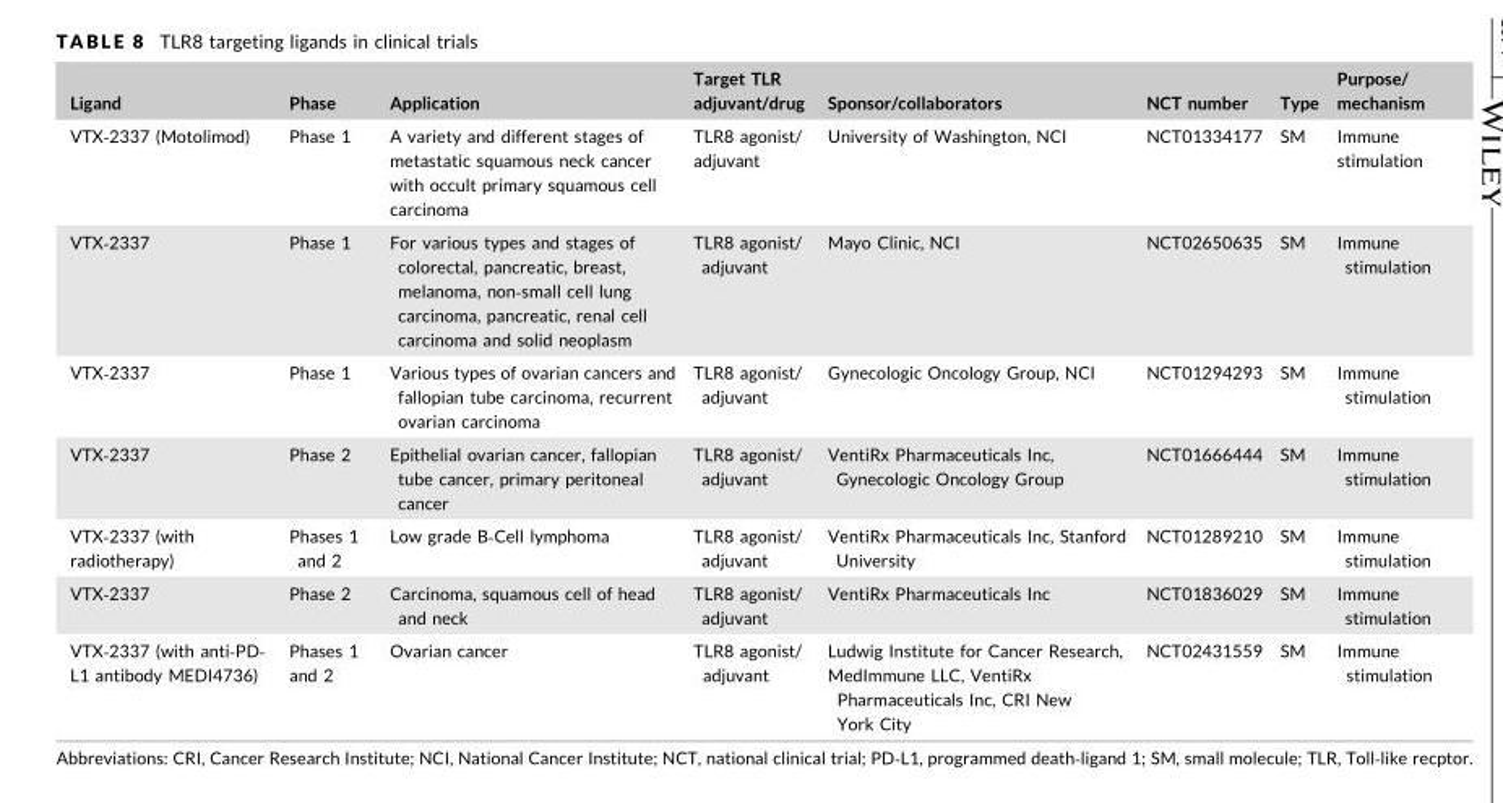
<table><thead><tr><td>Ligand</td><td>Phase</td><td>Application</td><td>Target TLR adjuvant/drug</td><td>Sponsor/collaborators</td><td>NCT number</td><td>Type</td><td>Purpose/ mechanism</td></tr></thead><tbody><tr><td>VTX‐2337 (Motolimod)</td><td>Phase 1</td><td>A variety and different stages of metastatic squamous neck cancer with occult primary squamous cell carcinoma</td><td>TLR8 agonist/ adjuvant</td><td>University of Washington, NCI</td><td>NCT01334177</td><td>SM</td><td>Immune stimulation</td></tr><tr><td>VTX‐2337</td><td>Phase 1</td><td>For various types and stages of colorectal, pancreatic, breast, melanoma, non‐small cell lung carcinoma, pancreatic, renal cell carcinoma and solid neoplasm</td><td>TLR8 agonist/ adjuvant</td><td>Mayo Clinic, NCI</td><td>NCT02650635</td><td>SM</td><td>Immune stimulation</td></tr><tr><td>VTX‐2337</td><td>Phase 1</td><td>Various types of ovarian cancers and fallopian tube carcinoma, recurrent ovarian carcinoma</td><td>TLR8 agonist/ adjuvant</td><td>Gynecologic Oncology Group, NCI</td><td>NCT01294293</td><td>SM</td><td>Immune stimulation</td></tr><tr><td>VTX‐2337</td><td>Phase 2</td><td>Epithelial ovarian cancer, fallopian tube cancer, primary peritoneal cancer</td><td>TLR8 agonist/ adjuvant</td><td>VentiRx Pharmaceuticals Inc, Gynecologic Oncology Group</td><td>NCT01666444</td><td>SM</td><td>Immune stimulation</td></tr><tr><td>VTX‐2337 (with radiotherapy)</td><td>Phases 1 and 2</td><td>Low grade B‐Cell lymphoma</td><td>TLR8 agonist/ adjuvant</td><td>VentiRx Pharmaceuticals Inc, Stanford University</td><td>NCT01289210</td><td>SM</td><td>Immune stimulation</td></tr><tr><td>VTX‐2337</td><td>Phase 2</td><td>Carcinoma, squamous cell of head and neck</td><td>TLR8 agonist/ adjuvant</td><td>VentiRx Pharmaceuticals Inc</td><td>NCT01836029</td><td>SM</td><td>Immune stimulation</td></tr><tr><td>VTX‐2337 (with anti‐PD‐ L1 antibody MEDI4736)</td><td>Phases 1 and 2</td><td>Ovarian cancer</td><td>TLR8 agonist/ adjuvant</td><td>Ludwig Institute for Cancer Research, MedImmune LLC, VentiRx Pharmaceuticals Inc, CRI New York City</td><td>NCT02431559</td><td>SM</td><td>Immune stimulation</td></tr></tbody></table>